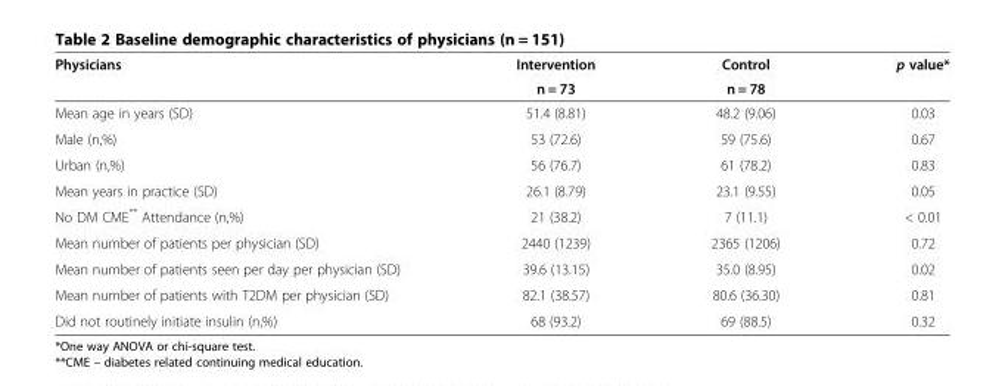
<table><thead><tr><td rowspan="2">Physicians</td><td rowspan="2">Intervention n = 73</td><td rowspan="2">Control n = 78</td><td rowspan="2">p value*</td></tr><tr></tr></thead><tbody><tr><td>Mean age in years (SD)</td><td>51.4 (8.81)</td><td>48.2 (9.06)</td><td>0.03</td></tr><tr><td>Male (n,%)</td><td>53 (72.6)</td><td>59 (75.6)</td><td>0.67</td></tr><tr><td>Urban (n,%)</td><td>56 (76.7)</td><td>61 (78.2)</td><td>0.83</td></tr><tr><td>Mean years in practice (SD)</td><td>26.1 (8.79)</td><td>23.1 (9.55)</td><td>0.05</td></tr><tr><td>No DM CME** Attendance (n,%)</td><td>21 (38.2)</td><td>7 (11.1)</td><td>&lt; 0.01</td></tr><tr><td>Mean number of patients per physician (SD)</td><td>2440 (1239)</td><td>2365 (1206)</td><td>0.72</td></tr><tr><td>Mean number of patients seen per day per physician (SD)</td><td>39.6 (13.15)</td><td>35.0 (8.95)</td><td>0.02</td></tr><tr><td>Mean number of patients with T2DM per physician (SD)</td><td>82.1 (38.57)</td><td>80.6 (36.30)</td><td>0.81</td></tr><tr><td>Did not routinely initiate insulin (n,%)</td><td>68 (93.2)</td><td>69 (88.5)</td><td>0.32</td></tr></tbody></table>